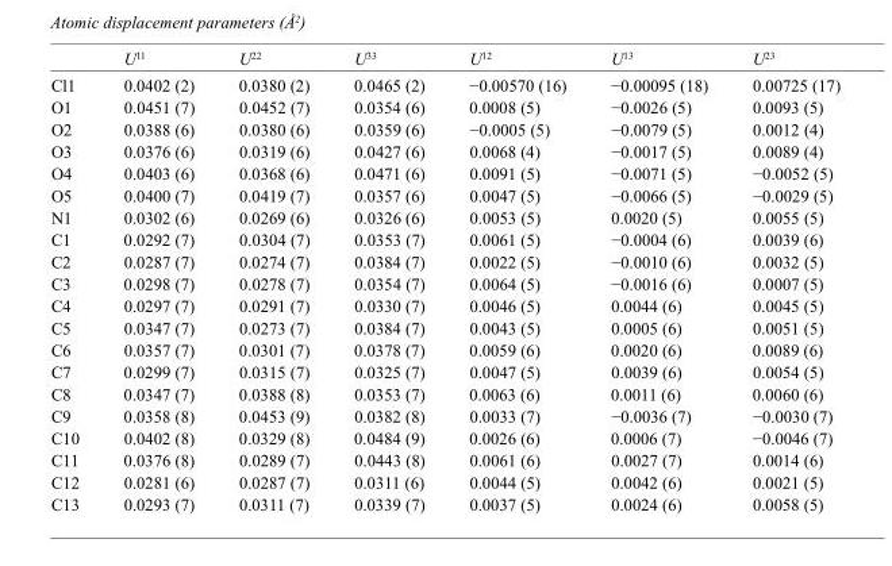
<table><thead><tr><td></td><td>U<sup>11</sup></td><td>U<sup>22</sup></td><td>U<sup>33</sup></td><td>U<sup>12</sup></td><td>U<sup>13</sup></td><td>U<sup>23</sup></td></tr></thead><tbody><tr><td>Cl1</td><td>0.0402 (2)</td><td>0.0380 (2)</td><td>0.0465 (2)</td><td>−0.00570 (16)</td><td>−0.00095 (18)</td><td>0.00725 (17)</td></tr><tr><td>O1</td><td>0.0451 (7)</td><td>0.0452 (7)</td><td>0.0354 (6)</td><td>0.0008 (5)</td><td>−0.0026 (5)</td><td>0.0093 (5)</td></tr><tr><td>O2</td><td>0.0388 (6)</td><td>0.0380 (6)</td><td>0.0359 (6)</td><td>−0.0005 (5)</td><td>−0.0079 (5)</td><td>0.0012 (4)</td></tr><tr><td>O3</td><td>0.0376 (6)</td><td>0.0319 (6)</td><td>0.0427 (6)</td><td>0.0068 (4)</td><td>−0.0017 (5)</td><td>0.0089 (4)</td></tr><tr><td>O4</td><td>0.0403 (6)</td><td>0.0368 (6)</td><td>0.0471 (6)</td><td>0.0091 (5)</td><td>−0.0071 (5)</td><td>−0.0052 (5)</td></tr><tr><td>O5</td><td>0.0400 (7)</td><td>0.0419 (7)</td><td>0.0357 (6)</td><td>0.0047 (5)</td><td>−0.0066 (5)</td><td>−0.0029 (5)</td></tr><tr><td>N1</td><td>0.0302 (6)</td><td>0.0269 (6)</td><td>0.0326 (6)</td><td>0.0053 (5)</td><td>0.0020 (5)</td><td>0.0055 (5)</td></tr><tr><td>C1</td><td>0.0292 (7)</td><td>0.0304 (7)</td><td>0.0353 (7)</td><td>0.0061 (5)</td><td>−0.0004 (6)</td><td>0.0039 (6)</td></tr><tr><td>C2</td><td>0.0287 (7)</td><td>0.0274 (7)</td><td>0.0384 (7)</td><td>0.0022 (5)</td><td>−0.0010 (6)</td><td>0.0032 (5)</td></tr><tr><td>C3</td><td>0.0298 (7)</td><td>0.0278 (7)</td><td>0.0354 (7)</td><td>0.0064 (5)</td><td>−0.0016 (6)</td><td>0.0007 (5)</td></tr><tr><td>C4</td><td>0.0297 (7)</td><td>0.0291 (7)</td><td>0.0330 (7)</td><td>0.0046 (5)</td><td>0.0044 (6)</td><td>0.0045 (5)</td></tr><tr><td>C5</td><td>0.0347 (7)</td><td>0.0273 (7)</td><td>0.0384 (7)</td><td>0.0043 (5)</td><td>0.0005 (6)</td><td>0.0051 (5)</td></tr><tr><td>C6</td><td>0.0357 (7)</td><td>0.0301 (7)</td><td>0.0378 (7)</td><td>0.0059 (6)</td><td>0.0020 (6)</td><td>0.0089 (6)</td></tr><tr><td>C7</td><td>0.0299 (7)</td><td>0.0315 (7)</td><td>0.0325 (7)</td><td>0.0047 (5)</td><td>0.0039 (6)</td><td>0.0054 (5)</td></tr><tr><td>C8</td><td>0.0347 (7)</td><td>0.0388 (8)</td><td>0.0353 (7)</td><td>0.0063 (6)</td><td>0.0011 (6)</td><td>0.0060 (6)</td></tr><tr><td>C9</td><td>0.0358 (8)</td><td>0.0453 (9)</td><td>0.0382 (8)</td><td>0.0033 (7)</td><td>−0.0036 (7)</td><td>−0.0030 (7)</td></tr><tr><td>C10</td><td>0.0402 (8)</td><td>0.0329 (8)</td><td>0.0484 (9)</td><td>0.0026 (6)</td><td>0.0006 (7)</td><td>−0.0046 (7)</td></tr><tr><td>C11</td><td>0.0376 (8)</td><td>0.0289 (7)</td><td>0.0443 (8)</td><td>0.0061 (6)</td><td>0.0027 (7)</td><td>0.0014 (6)</td></tr><tr><td>C12</td><td>0.0281 (6)</td><td>0.0287 (7)</td><td>0.0311 (6)</td><td>0.0044 (5)</td><td>0.0042 (6)</td><td>0.0021 (5)</td></tr><tr><td>C13</td><td>0.0293 (7)</td><td>0.0311 (7)</td><td>0.0339 (7)</td><td>0.0037 (5)</td><td>0.0024 (6)</td><td>0.0058 (5)</td></tr></tbody></table>